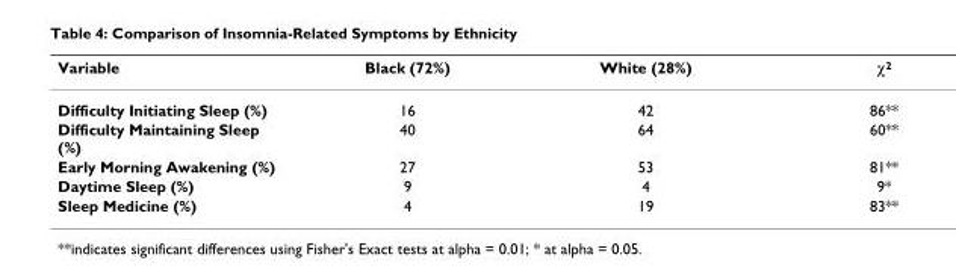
<table><thead><tr><td>Variable</td><td>Black (72%)</td><td>White (28%)</td><td>χ<sup>2</sup></td></tr></thead><tbody><tr><td>Difficulty Initiating Sleep (%)</td><td>16</td><td>42</td><td>86**</td></tr><tr><td>Difficulty Maintaining Sleep (%)</td><td>40</td><td>64</td><td>60**</td></tr><tr><td>Early Morning Awakening (%)</td><td>27</td><td>53</td><td>81**</td></tr><tr><td>Daytime Sleep (%)</td><td>9</td><td>4</td><td>9*</td></tr><tr><td>Sleep Medicine (%)</td><td>4</td><td>19</td><td>83**</td></tr></tbody></table>